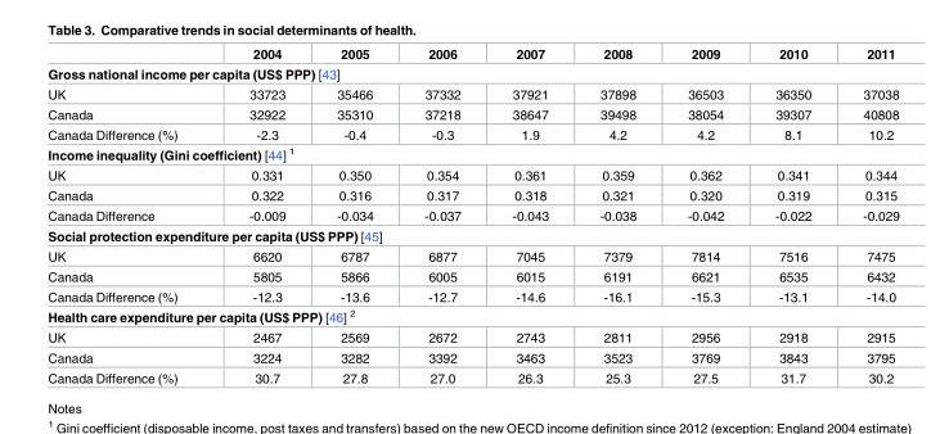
<table><thead><tr><td></td><td>2004</td><td>2005</td><td>2006</td><td>2007</td><td>2008</td><td>2009</td><td>2010</td><td>2011</td></tr></thead><tbody><tr><td colspan="9">Gross national income per capita (US$ PPP) [43]</td></tr><tr><td>UK</td><td>33723</td><td>35466</td><td>37332</td><td>37921</td><td>37898</td><td>36503</td><td>36350</td><td>37038</td></tr><tr><td>Canada</td><td>32922</td><td>35310</td><td>37218</td><td>38647</td><td>39498</td><td>38054</td><td>39307</td><td>40808</td></tr><tr><td>Canada Difference (%)</td><td>-2.3</td><td>-0.4</td><td>-0.3</td><td>1.9</td><td>4.2</td><td>4.2</td><td>8.1</td><td>10.2</td></tr><tr><td colspan="9">Income inequality (Gini coefficient) [44] <sup>1</sup></td></tr><tr><td>UK</td><td>0.331</td><td>0.350</td><td>0.354</td><td>0.361</td><td>0.359</td><td>0.362</td><td>0.341</td><td>0.344</td></tr><tr><td>Canada</td><td>0.322</td><td>0.316</td><td>0.317</td><td>0.318</td><td>0.321</td><td>0.320</td><td>0.319</td><td>0.315</td></tr><tr><td>Canada Difference</td><td>-0.009</td><td>-0.034</td><td>-0.037</td><td>-0.043</td><td>-0.038</td><td>-0.042</td><td>-0.022</td><td>-0.029</td></tr><tr><td colspan="9">Social protection expenditure per capita (US$ PPP) [45]</td></tr><tr><td>UK</td><td>6620</td><td>6787</td><td>6877</td><td>7045</td><td>7379</td><td>7814</td><td>7516</td><td>7475</td></tr><tr><td>Canada</td><td>5805</td><td>5866</td><td>6005</td><td>6015</td><td>6191</td><td>6621</td><td>6535</td><td>6432</td></tr><tr><td>Canada Difference (%)</td><td>-12.3</td><td>-13.6</td><td>-12.7</td><td>-14.6</td><td>-16.1</td><td>-15.3</td><td>-13.1</td><td>-14.0</td></tr><tr><td colspan="9">Health care expenditure per capita (US$ PPP) [46] <sup>2</sup></td></tr><tr><td>UK</td><td>2467</td><td>2569</td><td>2672</td><td>2743</td><td>2811</td><td>2956</td><td>2918</td><td>2915</td></tr><tr><td>Canada</td><td>3224</td><td>3282</td><td>3392</td><td>3463</td><td>3523</td><td>3769</td><td>3843</td><td>3795</td></tr><tr><td>Canada Difference (%)</td><td>30.7</td><td>27.8</td><td>27.0</td><td>26.3</td><td>25.3</td><td>27.5</td><td>31.7</td><td>30.2</td></tr></tbody></table>